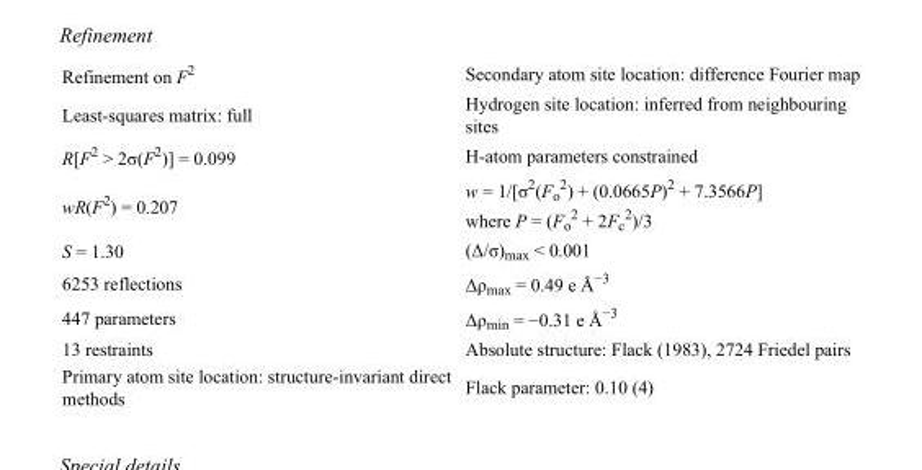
<table><tbody><tr><td>Refinement on F<sup>2</sup></td><td>Secondary atom site location: difference Fourier map</td></tr><tr><td>Least-squares matrix: full</td><td>Hydrogen site location: inferred from neighbouring sites</td></tr><tr><td>R[F<sup>2</sup> &gt; 2σ(F<sup>2</sup>)] = 0.099</td><td>H-atom parameters constrained</td></tr><tr><td>wR(F<sup>2</sup>) = 0.207</td><td>w = 1/[σ<sup>2</sup>(F<sub>o</sub> <sup>2</sup>) + (0.0665P)<sup>2</sup> + 7.3566P] where P = (F<sub>o</sub> <sup>2</sup> + 2F<sub>c</sub> <sup>2</sup>)/3</td></tr><tr><td>S = 1.30</td><td>(Δ/σ)<sub>max</sub> &lt; 0.001</td></tr><tr><td>6253 reflections</td><td>Δρ<sub>max</sub> = 0.49 e Å<sup>−3</sup></td></tr><tr><td>447 parameters</td><td>Δρ<sub>min</sub> = −0.31 e Å<sup>−3</sup></td></tr><tr><td>13 restraints</td><td>Absolute structure: Flack (1983), 2724 Friedel pairs</td></tr><tr><td>Primary atom site location: structure-invariant direct methods</td><td>Flack parameter: 0.10 (4)</td></tr></tbody></table>